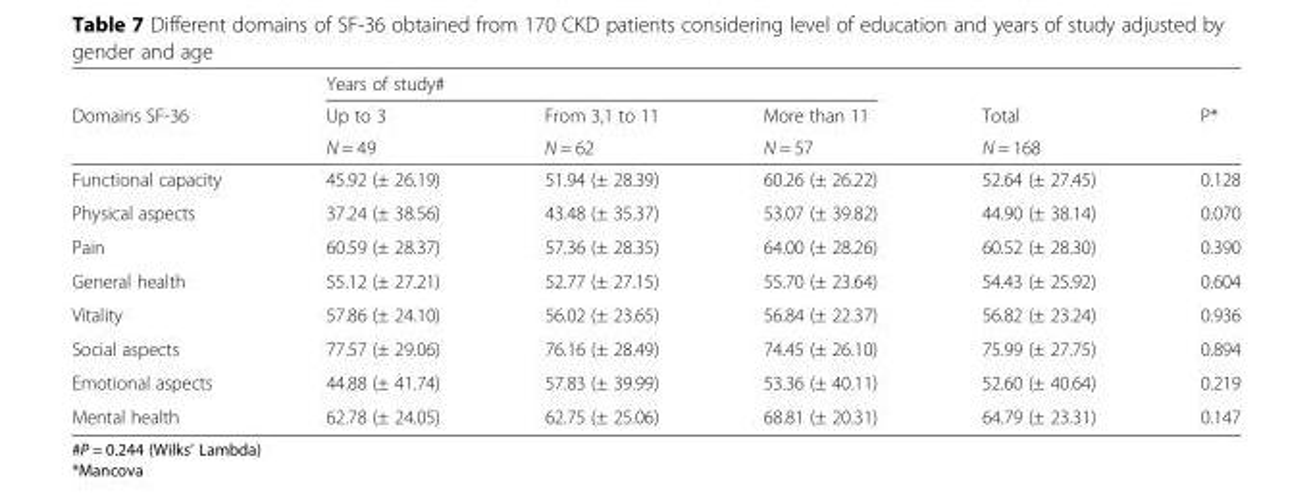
<table><thead><tr><td rowspan="3">Domains SF-36</td><td colspan="3">Years of study#</td><td rowspan="3">Total N = 168</td><td rowspan="3">P*</td></tr><tr><td rowspan="2">Up to 3 N = 49</td><td rowspan="2">From 3,1 to 11 N = 62</td><td rowspan="2">More than 11 N = 57</td></tr><tr></tr></thead><tbody><tr><td>Functional capacity</td><td>45.92 (± 26.19)</td><td>51.94 (± 28.39)</td><td>60.26 (± 26.22)</td><td>52.64 (± 27.45)</td><td>0.128</td></tr><tr><td>Physical aspects</td><td>37.24 (± 38.56)</td><td>43.48 (± 35.37)</td><td>53.07 (± 39.82)</td><td>44.90 (± 38.14)</td><td>0.070</td></tr><tr><td>Pain</td><td>60.59 (± 28.37)</td><td>57.36 (± 28.35)</td><td>64.00 (± 28.26)</td><td>60.52 (± 28.30)</td><td>0.390</td></tr><tr><td>General health</td><td>55.12 (± 27.21)</td><td>52.77 (± 27.15)</td><td>55.70 (± 23.64)</td><td>54.43 (± 25.92)</td><td>0.604</td></tr><tr><td>Vitality</td><td>57.86 (± 24.10)</td><td>56.02 (± 23.65)</td><td>56.84 (± 22.37)</td><td>56.82 (± 23.24)</td><td>0.936</td></tr><tr><td>Social aspects</td><td>77.57 (± 29.06)</td><td>76.16 (± 28.49)</td><td>74.45 (± 26.10)</td><td>75.99 (± 27.75)</td><td>0.894</td></tr><tr><td>Emotional aspects</td><td>44.88 (± 41.74)</td><td>57.83 (± 39.99)</td><td>53.36 (± 40.11)</td><td>52.60 (± 40.64)</td><td>0.219</td></tr><tr><td>Mental health</td><td>62.78 (± 24.05)</td><td>62.75 (± 25.06)</td><td>68.81 (± 20.31)</td><td>64.79 (± 23.31)</td><td>0.147</td></tr></tbody></table>